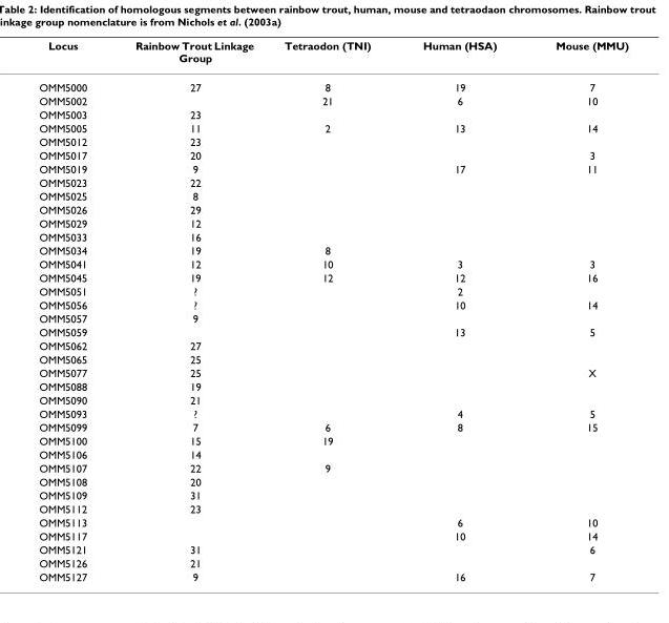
<table><thead><tr><td>Locus</td><td>Rainbow Trout Linkage Group</td><td>Tetraodon (TNI)</td><td>Human (HSA)</td><td>Mouse (MMU)</td></tr></thead><tbody><tr><td>OMM5000</td><td>27</td><td>8</td><td>19</td><td>7</td></tr><tr><td>OMM5002</td><td></td><td>21</td><td>6</td><td>10</td></tr><tr><td>OMM5003</td><td>23</td><td></td><td></td><td></td></tr><tr><td>OMM5005</td><td>11</td><td>2</td><td>13</td><td>14</td></tr><tr><td>OMM5012</td><td>23</td><td></td><td></td><td></td></tr><tr><td>OMM5017</td><td>20</td><td></td><td></td><td>3</td></tr><tr><td>OMM5019</td><td>9</td><td></td><td>17</td><td>11</td></tr><tr><td>OMM5023</td><td>22</td><td></td><td></td><td></td></tr><tr><td>OMM5025</td><td>8</td><td></td><td></td><td></td></tr><tr><td>OMM5026</td><td>29</td><td></td><td></td><td></td></tr><tr><td>OMM5029</td><td>12</td><td></td><td></td><td></td></tr><tr><td>OMM5033</td><td>16</td><td></td><td></td><td></td></tr><tr><td>OMM5034</td><td>19</td><td>8</td><td></td><td></td></tr><tr><td>OMM5041</td><td>12</td><td>10</td><td>3</td><td>3</td></tr><tr><td>OMM5045</td><td>19</td><td>12</td><td>12</td><td>16</td></tr><tr><td>OMM5051</td><td>?</td><td></td><td>2</td><td></td></tr><tr><td>OMM5056</td><td>?</td><td></td><td>10</td><td>14</td></tr><tr><td>OMM5057</td><td>9</td><td></td><td></td><td></td></tr><tr><td>OMM5059</td><td></td><td></td><td>13</td><td>5</td></tr><tr><td>OMM5062</td><td>27</td><td></td><td></td><td></td></tr><tr><td>OMM5065</td><td>25</td><td></td><td></td><td></td></tr><tr><td>OMM5077</td><td>25</td><td></td><td></td><td>X</td></tr><tr><td>OMM5088</td><td>19</td><td></td><td></td><td></td></tr><tr><td>OMM5090</td><td>21</td><td></td><td></td><td></td></tr><tr><td>OMM5093</td><td>?</td><td></td><td>4</td><td>5</td></tr><tr><td>OMM5099</td><td>7</td><td>6</td><td>8</td><td>15</td></tr><tr><td>OMM5100</td><td>15</td><td>19</td><td></td><td></td></tr><tr><td>OMM5106</td><td>14</td><td></td><td></td><td></td></tr><tr><td>OMM5107</td><td>22</td><td>9</td><td></td><td></td></tr><tr><td>OMM5108</td><td>20</td><td></td><td></td><td></td></tr><tr><td>OMM5109</td><td>31</td><td></td><td></td><td></td></tr><tr><td>OMM5112</td><td>23</td><td></td><td></td><td></td></tr><tr><td>OMM5113</td><td></td><td></td><td>6</td><td>10</td></tr><tr><td>OMM5117</td><td></td><td></td><td>10</td><td>14</td></tr><tr><td>OMM5121</td><td>31</td><td></td><td></td><td>6</td></tr><tr><td>OMM5126</td><td>21</td><td></td><td></td><td></td></tr><tr><td>OMM5127</td><td>9</td><td></td><td>16</td><td>7</td></tr></tbody></table>